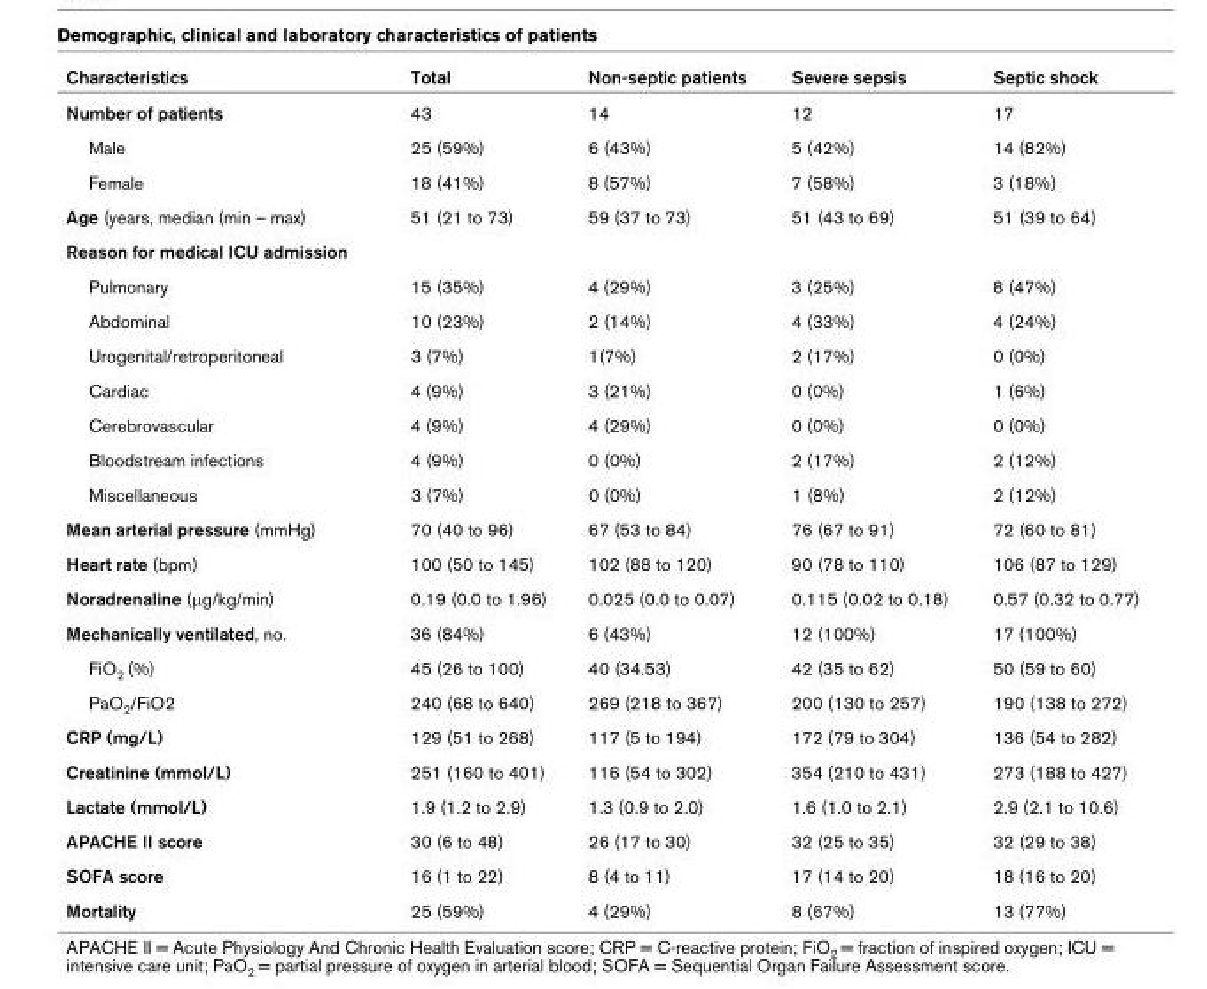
<table><thead><tr><td>Characteristics</td><td>Total</td><td>Non-septic patients</td><td>Severe sepsis</td><td>Septic shock</td></tr></thead><tbody><tr><td>Number of patients</td><td>43</td><td>14</td><td>12</td><td>17</td></tr><tr><td>Male</td><td>25 (59%)</td><td>6 (43%)</td><td>5 (42%)</td><td>14 (82%)</td></tr><tr><td>Female</td><td>18 (41%)</td><td>8 (57%)</td><td>7 (58%)</td><td>3 (18%)</td></tr><tr><td>Age (years, median (min – max)</td><td>51 (21 to 73)</td><td>59 (37 to 73)</td><td>51 (43 to 69)</td><td>51 (39 to 64)</td></tr><tr><td colspan="5">Reason for medical ICU admission</td></tr><tr><td>Pulmonary</td><td>15 (35%)</td><td>4 (29%)</td><td>3 (25%)</td><td>8 (47%)</td></tr><tr><td>Abdominal</td><td>10 (23%)</td><td>2 (14%)</td><td>4 (33%)</td><td>4 (24%)</td></tr><tr><td>Urogenital/retroperitoneal</td><td>3 (7%)</td><td>1(7%)</td><td>2 (17%)</td><td>0 (0%)</td></tr><tr><td>Cardiac</td><td>4 (9%)</td><td>3 (21%)</td><td>0 (0%)</td><td>1 (6%)</td></tr><tr><td>Cerebrovascular</td><td>4 (9%)</td><td>4 (29%)</td><td>0 (0%)</td><td>0 (0%)</td></tr><tr><td>Bloodstream infections</td><td>4 (9%)</td><td>0 (0%)</td><td>2 (17%)</td><td>2 (12%)</td></tr><tr><td>Miscellaneous</td><td>3 (7%)</td><td>0 (0%)</td><td>1 (8%)</td><td>2 (12%)</td></tr><tr><td>Mean arterial pressure (mmHg)</td><td>70 (40 to 96)</td><td>67 (53 to 84)</td><td>76 (67 to 91)</td><td>72 (60 to 81)</td></tr><tr><td>Heart rate (bpm)</td><td>100 (50 to 145)</td><td>102 (88 to 120)</td><td>90 (78 to 110)</td><td>106 (87 to 129)</td></tr><tr><td>Noradrenaline (μg/kg/min)</td><td>0.19 (0.0 to 1.96)</td><td>0.025 (0.0 to 0.07)</td><td>0.115 (0.02 to 0.18)</td><td>0.57 (0.32 to 0.77)</td></tr><tr><td>Mechanically ventilated, no.</td><td>36 (84%)</td><td>6 (43%)</td><td>12 (100%)</td><td>17 (100%)</td></tr><tr><td>FiO<sub>2</sub> (%)</td><td>45 (26 to 100)</td><td>40 (34.53)</td><td>42 (35 to 62)</td><td>50 (59 to 60)</td></tr><tr><td>PaO<sub>2</sub>/FiO2</td><td>240 (68 to 640)</td><td>269 (218 to 367)</td><td>200 (130 to 257)</td><td>190 (138 to 272)</td></tr><tr><td>CRP (mg/L)</td><td>129 (51 to 268)</td><td>117 (5 to 194)</td><td>172 (79 to 304)</td><td>136 (54 to 282)</td></tr><tr><td>Creatinine (mmol/L)</td><td>251 (160 to 401)</td><td>116 (54 to 302)</td><td>354 (210 to 431)</td><td>273 (188 to 427)</td></tr><tr><td>Lactate (mmol/L)</td><td>1.9 (1.2 to 2.9)</td><td>1.3 (0.9 to 2.0)</td><td>1.6 (1.0 to 2.1)</td><td>2.9 (2.1 to 10.6)</td></tr><tr><td>APACHE II score</td><td>30 (6 to 48)</td><td>26 (17 to 30)</td><td>32 (25 to 35)</td><td>32 (29 to 38)</td></tr><tr><td>SOFA score</td><td>16 (1 to 22)</td><td>8 (4 to 11)</td><td>17 (14 to 20)</td><td>18 (16 to 20)</td></tr><tr><td>Mortality</td><td>25 (59%)</td><td>4 (29%)</td><td>8 (67%)</td><td>13 (77%)</td></tr></tbody></table>